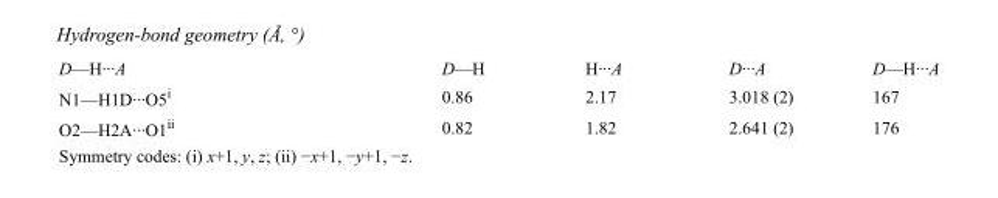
<table><tbody><tr><td>D—H···A</td><td>D—H</td><td>H···A</td><td>D···A</td><td>D—H···A</td></tr><tr><td>N1—H1D···O5<sup>i</sup></td><td>0.86</td><td>2.17</td><td>3.018 (2)</td><td>167</td></tr><tr><td>O2—H2A···O1<sup>ii</sup></td><td>0.82</td><td>1.82</td><td>2.641 (2)</td><td>176</td></tr></tbody></table>